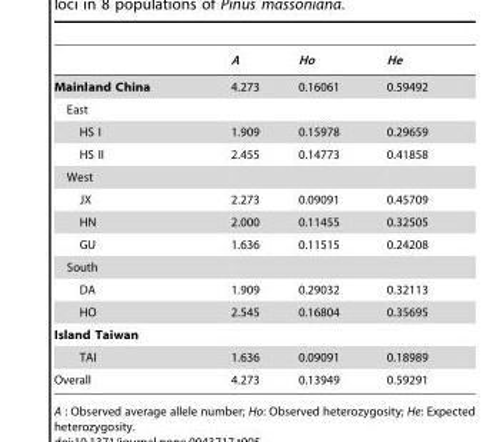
<table><thead><tr><td></td><td>A</td><td>Ho</td><td>He</td></tr></thead><tbody><tr><td>Mainland China</td><td>4.273</td><td>0.16061</td><td>0.59492</td></tr><tr><td colspan="4">East</td></tr><tr><td>HS I</td><td>1.909</td><td>0.15978</td><td>0.29659</td></tr><tr><td>HS II</td><td>2.455</td><td>0.14773</td><td>0.41858</td></tr><tr><td colspan="4">West</td></tr><tr><td>JX</td><td>2.273</td><td>0.09091</td><td>0.45709</td></tr><tr><td>HN</td><td>2.000</td><td>0.11455</td><td>0.32505</td></tr><tr><td>GU</td><td>1.636</td><td>0.11515</td><td>0.24208</td></tr><tr><td colspan="4">South</td></tr><tr><td>DA</td><td>1.909</td><td>0.29032</td><td>0.32113</td></tr><tr><td>HO</td><td>2.545</td><td>0.16804</td><td>0.35695</td></tr><tr><td colspan="4">Island Taiwan</td></tr><tr><td>TAI</td><td>1.636</td><td>0.09091</td><td>0.18989</td></tr><tr><td>Overall</td><td>4.273</td><td>0.13949</td><td>0.59291</td></tr></tbody></table>